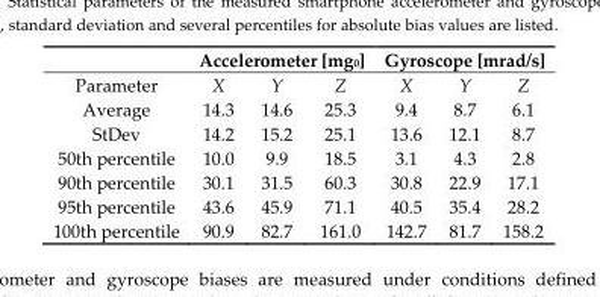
<table><thead><tr><td rowspan="2">Parameter</td><td colspan="3">Accelerometer [mg<sub>0</sub>]</td><td colspan="3">Gyroscope [mrad/s]</td></tr><tr><td>X</td><td>Y</td><td>Z</td><td>X</td><td>Y</td><td>Z</td></tr></thead><tbody><tr><td>Average</td><td>14.3</td><td>14.6</td><td>25.3</td><td>9.4</td><td>8.7</td><td>6.1</td></tr><tr><td>StDev</td><td>14.2</td><td>15.2</td><td>25.1</td><td>13.6</td><td>12.1</td><td>8.7</td></tr><tr><td>50th percentile</td><td>10.0</td><td>9.9</td><td>18.5</td><td>3.1</td><td>4.3</td><td>2.8</td></tr><tr><td>90th percentile</td><td>30.1</td><td>31.5</td><td>60.3</td><td>30.8</td><td>22.9</td><td>17.1</td></tr><tr><td>95th percentile</td><td>43.6</td><td>45.9</td><td>71.1</td><td>40.5</td><td>35.4</td><td>28.2</td></tr><tr><td>100th percentile</td><td>90.9</td><td>82.7</td><td>161.0</td><td>142.7</td><td>81.7</td><td>158.2</td></tr></tbody></table>